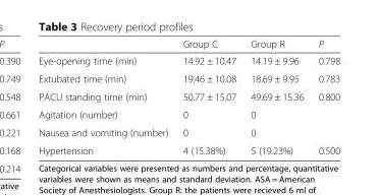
<table><thead><tr><td></td><td>Group C</td><td>Group R</td><td>P</td></tr></thead><tbody><tr><td>Eye-opening time (min)</td><td>14.92 ± 10.47</td><td>14.19 ± 9.96</td><td>0.798</td></tr><tr><td>Extubated time (min)</td><td>19.46 ± 10.08</td><td>18.69 ± 9.95</td><td>0.783</td></tr><tr><td>PACU standing time (min)</td><td>50.77 ± 15.07</td><td>49.69 ± 15.36</td><td>0.800</td></tr><tr><td>Agitation (number)</td><td>0</td><td>0</td><td></td></tr><tr><td>Nausea and vomiting (number)</td><td>0</td><td>0</td><td></td></tr><tr><td>Hypertension</td><td>4 (15.38%)</td><td>5 (19.23%)</td><td>0.500</td></tr></tbody></table>